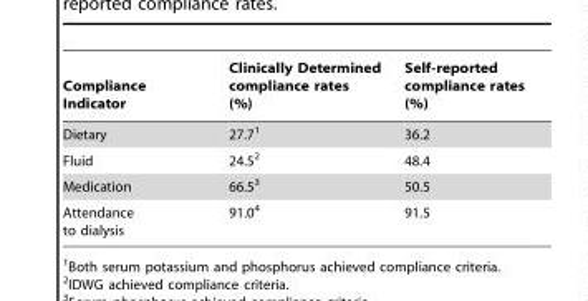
<table><thead><tr><td>Compliance Indicator</td><td>Clinically Determined compliance rates (%)</td><td>Self-reported compliance rates (%)</td></tr></thead><tbody><tr><td>Dietary</td><td>27.7<sup>1</sup></td><td>36.2</td></tr><tr><td>Fluid</td><td>24.5<sup>2</sup></td><td>48.4</td></tr><tr><td>Medication</td><td>66.5<sup>3</sup></td><td>50.5</td></tr><tr><td>Attendance to dialysis</td><td>91.0<sup>4</sup></td><td>91.5</td></tr></tbody></table>